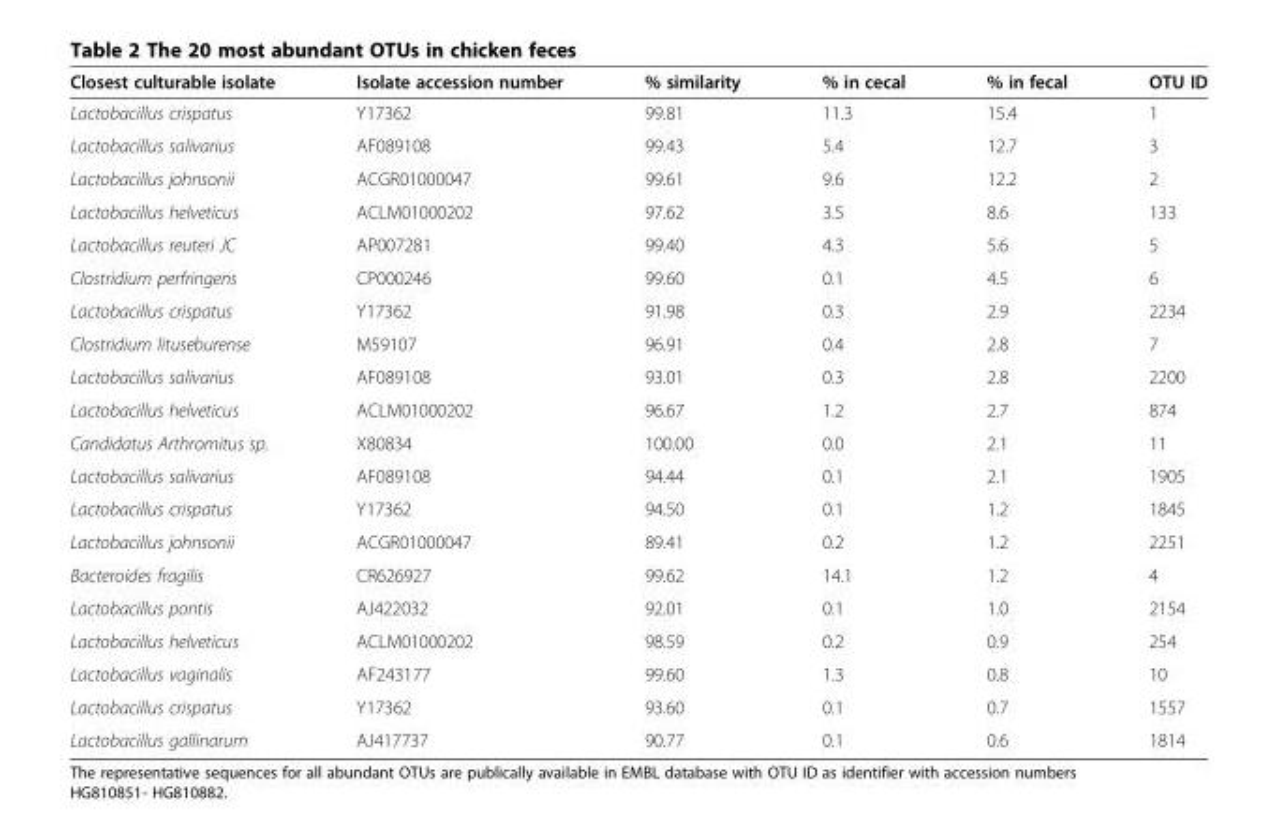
<table><thead><tr><td>Closest culturable isolate</td><td>Isolate accession number</td><td>% similarity</td><td>% in cecal</td><td>% in fecal</td><td>OTU ID</td></tr></thead><tbody><tr><td>Lactobacillus crispatus</td><td>Y17362</td><td>99.81</td><td>11.3</td><td>15.4</td><td>1</td></tr><tr><td>Lactobacillus salivarius</td><td>AF089108</td><td>99.43</td><td>5.4</td><td>12.7</td><td>3</td></tr><tr><td>Lactobacillus johnsonii</td><td>ACGR01000047</td><td>99.61</td><td>9.6</td><td>12.2</td><td>2</td></tr><tr><td>Lactobacillus helveticus</td><td>ACLM01000202</td><td>97.62</td><td>3.5</td><td>8.6</td><td>133</td></tr><tr><td>Lactobacillus reuteri JC</td><td>AP007281</td><td>99.40</td><td>4.3</td><td>5.6</td><td>5</td></tr><tr><td>Clostridium perfringens</td><td>CP000246</td><td>99.60</td><td>0.1</td><td>4.5</td><td>6</td></tr><tr><td>Lactobacillus crispatus</td><td>Y17362</td><td>91.98</td><td>0.3</td><td>2.9</td><td>2234</td></tr><tr><td>Clostridium lituseburense</td><td>M59107</td><td>96.91</td><td>0.4</td><td>2.8</td><td>7</td></tr><tr><td>Lactobacillus salivarius</td><td>AF089108</td><td>93.01</td><td>0.3</td><td>2.8</td><td>2200</td></tr><tr><td>Lactobacillus helveticus</td><td>ACLM01000202</td><td>96.67</td><td>1.2</td><td>2.7</td><td>874</td></tr><tr><td>Candidatus Arthromitus sp.</td><td>X80834</td><td>100.00</td><td>0.0</td><td>2.1</td><td>11</td></tr><tr><td>Lactobacillus salivarius</td><td>AF089108</td><td>94.44</td><td>0.1</td><td>2.1</td><td>1905</td></tr><tr><td>Lactobacillus crispatus</td><td>Y17362</td><td>94.50</td><td>0.1</td><td>1.2</td><td>1845</td></tr><tr><td>Lactobacillus johnsonii</td><td>ACGR01000047</td><td>89.41</td><td>0.2</td><td>1.2</td><td>2251</td></tr><tr><td>Bacteroides fragilis</td><td>CR626927</td><td>99.62</td><td>14.1</td><td>1.2</td><td>4</td></tr><tr><td>Lactobacillus pontis</td><td>AJ422032</td><td>92.01</td><td>0.1</td><td>1.0</td><td>2154</td></tr><tr><td>Lactobacillus helveticus</td><td>ACLM01000202</td><td>98.59</td><td>0.2</td><td>0.9</td><td>254</td></tr><tr><td>Lactobacillus vaginalis</td><td>AF243177</td><td>99.60</td><td>1.3</td><td>0.8</td><td>10</td></tr><tr><td>Lactobacillus crispatus</td><td>Y17362</td><td>93.60</td><td>0.1</td><td>0.7</td><td>1557</td></tr><tr><td>Lactobacillus gallinarum</td><td>AJ417737</td><td>90.77</td><td>0.1</td><td>0.6</td><td>1814</td></tr></tbody></table>